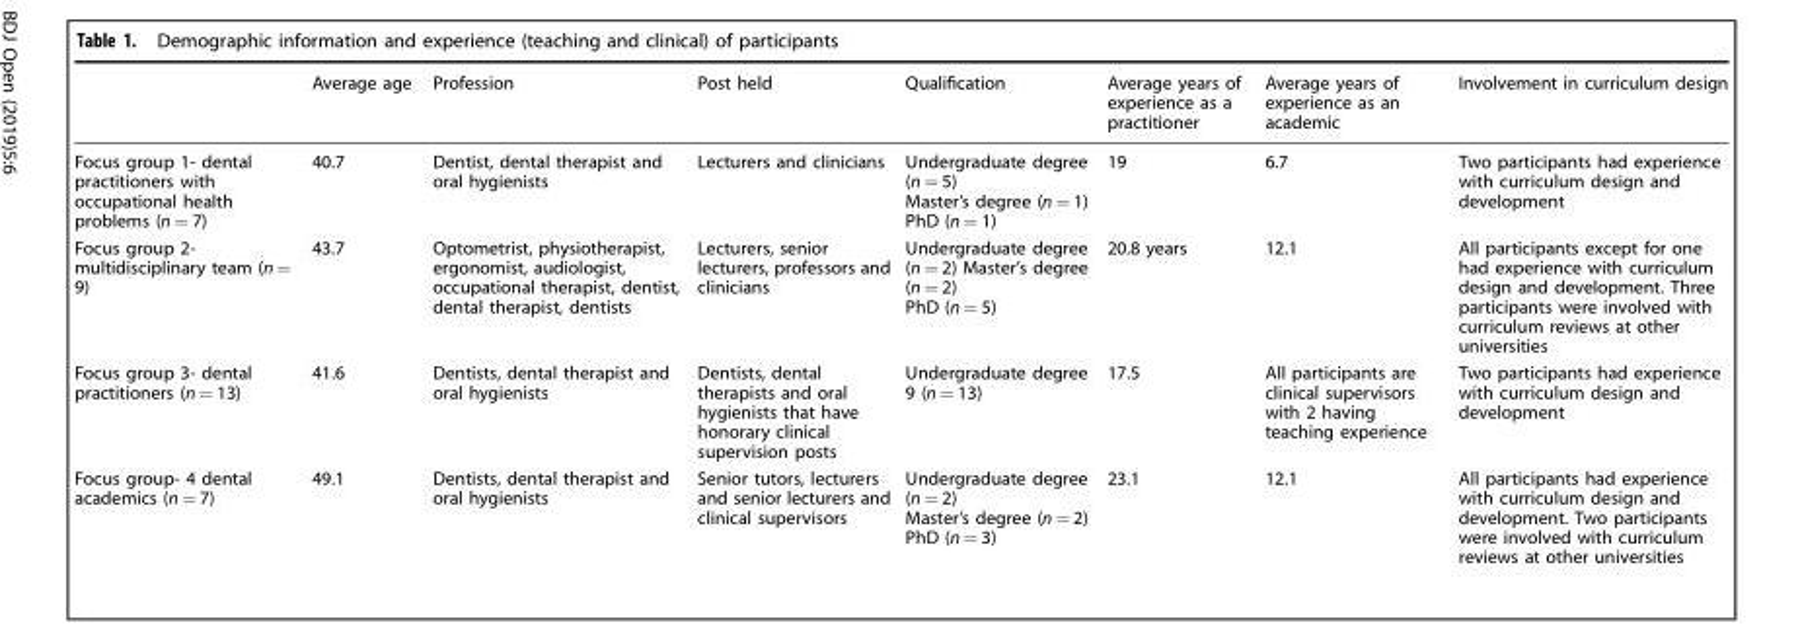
<table><thead><tr><td></td><td>Average age</td><td>Profession</td><td>Post held</td><td>Qualification</td><td>Average years of experience as a practitioner</td><td>Average years of experience as an academic</td><td>Involvement in curriculum design</td></tr></thead><tbody><tr><td>Focus group 1- dental practitioners with occupational health problems (n = 7)</td><td>40.7</td><td>Dentist, dental therapist and oral hygienists</td><td>Lecturers and clinicians</td><td>Undergraduate degree (n = 5) Master’s degree (n = 1) PhD (n = 1)</td><td>19</td><td>6.7</td><td>Two participants had experience with curriculum design and development</td></tr><tr><td>Focus group 2- multidisciplinary team (n = 9)</td><td>43.7</td><td>Optometrist, physiotherapist, ergonomist, audiologist, occupational therapist, dentist, dental therapist, dentists</td><td>Lecturers, senior lecturers, professors and clinicians</td><td>Undergraduate degree (n = 2) Master’s degree (n = 2) PhD (n = 5)</td><td>20.8 years</td><td>12.1</td><td>All participants except for one had experience with curriculum design and development. Three participants were involved with curriculum reviews at other universities</td></tr><tr><td>Focus group 3- dental practitioners (n = 13)</td><td>41.6</td><td>Dentists, dental therapist and oral hygienists</td><td>Dentists, dental therapists and oral hygienists that have honorary clinical supervision posts</td><td>Undergraduate degree 9 (n = 13)</td><td>17.5</td><td>All participants are clinical supervisors with 2 having teaching experience</td><td>Two participants had experience with curriculum design and development</td></tr><tr><td>Focus group- 4 dental academics (n = 7)</td><td>49.1</td><td>Dentists, dental therapist and oral hygienists</td><td>Senior tutors, lecturers and senior lecturers and clinical supervisors</td><td>Undergraduate degree (n = 2) Master’s degree (n = 2) PhD (n = 3)</td><td>23.1</td><td>12.1</td><td>All participants had experience with curriculum design and development. Two participants were involved with curriculum reviews at other universities</td></tr></tbody></table>